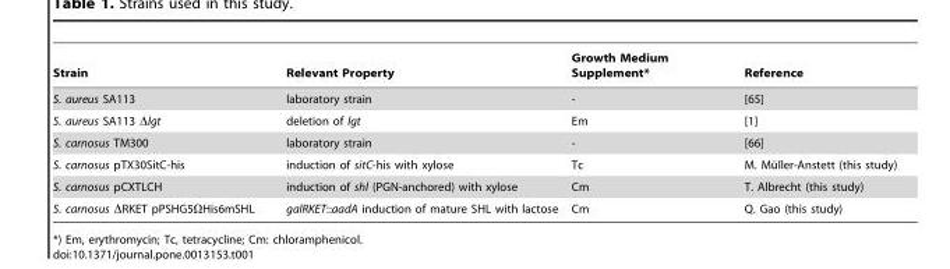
<table><thead><tr><td>Strain</td><td>Relevant Property</td><td>Growth Medium Supplement*</td><td>Reference</td></tr></thead><tbody><tr><td>S. aureus SA113</td><td>laboratory strain</td><td>-</td><td>[65]</td></tr><tr><td>S. aureus SA113 Δlgt</td><td>deletion of lgt</td><td>Em</td><td>[1]</td></tr><tr><td>S. carnosus TM300</td><td>laboratory strain</td><td>-</td><td>[66]</td></tr><tr><td>S. carnosus pTX30SitC-his</td><td>induction of sitC-his with xylose</td><td>Tc</td><td>M. Mu¨ller-Anstett (this study)</td></tr><tr><td>S. carnosus pCXTLCH</td><td>induction of shl (PGN-anchored) with xylose</td><td>Cm</td><td>T. Albrecht (this study)</td></tr><tr><td>S. carnosus ΔRKET pPSHG5ΩHis6mSHL</td><td>galRKET::aadA induction of mature SHL with lactose</td><td>Cm</td><td>Q. Gao (this study)</td></tr></tbody></table>